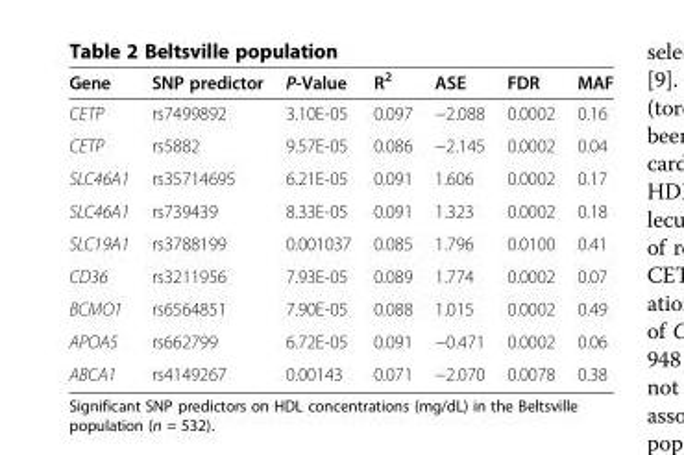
<table><thead><tr><td>Gene</td><td>SNP predictor</td><td>P-Value</td><td>R<sup>2</sup></td><td>ASE</td><td>FDR</td><td>MAF</td></tr></thead><tbody><tr><td>CETP</td><td>rs7499892</td><td>3.10E-05</td><td>0.097</td><td>−2.088</td><td>0.0002</td><td>0.16</td></tr><tr><td>CETP</td><td>rs5882</td><td>9.57E-05</td><td>0.086</td><td>−2.145</td><td>0.0002</td><td>0.04</td></tr><tr><td>SLC46A1</td><td>rs35714695</td><td>6.21E-05</td><td>0.091</td><td>1.606</td><td>0.0002</td><td>0.17</td></tr><tr><td>SLC46A1</td><td>rs739439</td><td>8.33E-05</td><td>0.091</td><td>1.323</td><td>0.0002</td><td>0.18</td></tr><tr><td>SLC19A1</td><td>rs3788199</td><td>0.001037</td><td>0.085</td><td>1.796</td><td>0.0100</td><td>0.41</td></tr><tr><td>CD36</td><td>rs3211956</td><td>7.93E-05</td><td>0.089</td><td>1.774</td><td>0.0002</td><td>0.07</td></tr><tr><td>BCMO1</td><td>rs6564851</td><td>7.90E-05</td><td>0.088</td><td>1.015</td><td>0.0002</td><td>0.49</td></tr><tr><td>APOA5</td><td>rs662799</td><td>6.72E-05</td><td>0.091</td><td>−0.471</td><td>0.0002</td><td>0.06</td></tr><tr><td>ABCA1</td><td>rs4149267</td><td>0.00143</td><td>0.071</td><td>−2.070</td><td>0.0078</td><td>0.38</td></tr></tbody></table>